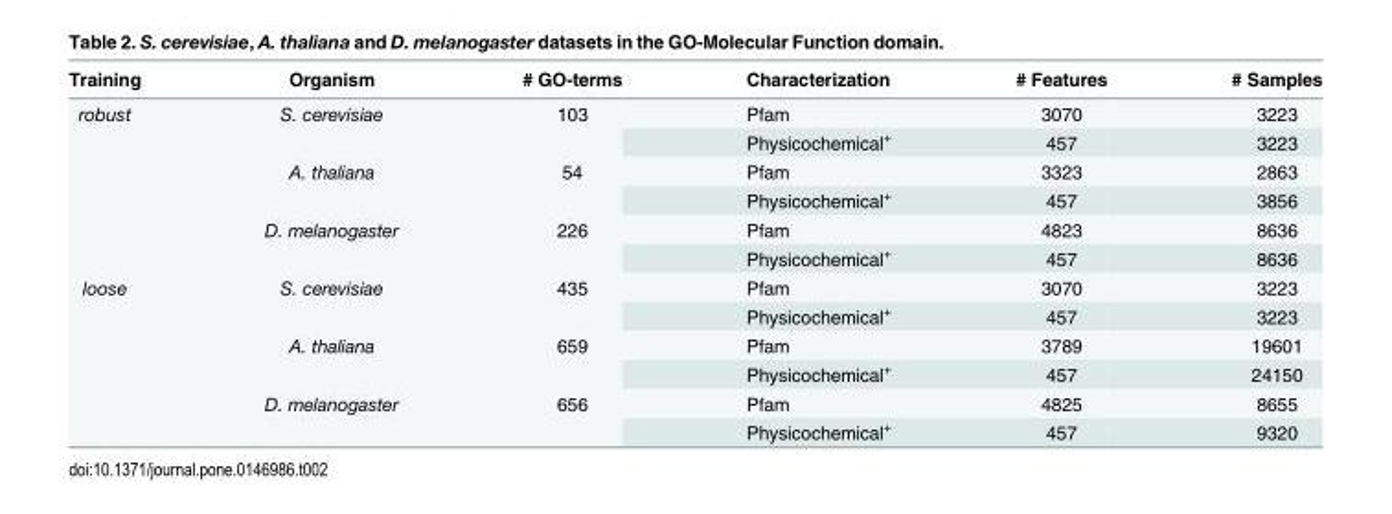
<table><thead><tr><td>Training</td><td>Organism</td><td># GO-terms</td><td>Characterization</td><td># Features</td><td># Samples</td></tr></thead><tbody><tr><td rowspan="6">robust</td><td rowspan="2">S. cerevisiae</td><td rowspan="2">103</td><td>Pfam</td><td>3070</td><td>3223</td></tr><tr><td>Physicochemical<sup>+</sup></td><td>457</td><td>3223</td></tr><tr><td rowspan="2">A. thaliana</td><td rowspan="2">54</td><td>Pfam</td><td>3323</td><td>2863</td></tr><tr><td>Physicochemical<sup>+</sup></td><td>457</td><td>3856</td></tr><tr><td rowspan="2">D. melanogaster</td><td rowspan="2">226</td><td>Pfam</td><td>4823</td><td>8636</td></tr><tr><td>Physicochemical<sup>+</sup></td><td>457</td><td>8636</td></tr><tr><td rowspan="6">loose</td><td rowspan="2">S. cerevisiae</td><td rowspan="2">435</td><td>Pfam</td><td>3070</td><td>3223</td></tr><tr><td>Physicochemical<sup>+</sup></td><td>457</td><td>3223</td></tr><tr><td rowspan="2">A. thaliana</td><td rowspan="2">659</td><td>Pfam</td><td>3789</td><td>19601</td></tr><tr><td>Physicochemical<sup>+</sup></td><td>457</td><td>24150</td></tr><tr><td rowspan="2">D. melanogaster</td><td rowspan="2">656</td><td>Pfam</td><td>4825</td><td>8655</td></tr><tr><td>Physicochemical<sup>+</sup></td><td>457</td><td>9320</td></tr></tbody></table>